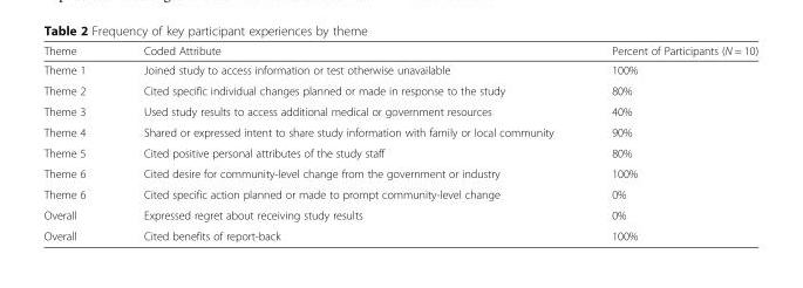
<table><thead><tr><td>Theme</td><td>Coded Attribute</td><td>Percent of Participants (N = 10)</td></tr></thead><tbody><tr><td>Theme 1</td><td>Joined study to access information or test otherwise unavailable</td><td>100%</td></tr><tr><td>Theme 2</td><td>Cited specific individual changes planned or made in response to the study</td><td>80%</td></tr><tr><td>Theme 3</td><td>Used study results to access additional medical or government resources</td><td>40%</td></tr><tr><td>Theme 4</td><td>Shared or expressed intent to share study information with family or local community</td><td>90%</td></tr><tr><td>Theme 5</td><td>Cited positive personal attributes of the study staff</td><td>80%</td></tr><tr><td>Theme 6</td><td>Cited desire for community-level change from the government or industry</td><td>100%</td></tr><tr><td>Theme 6</td><td>Cited specific action planned or made to prompt community-level change</td><td>0%</td></tr><tr><td>Overall</td><td>Expressed regret about receiving study results</td><td>0%</td></tr><tr><td>Overall</td><td>Cited benefits of report-back</td><td>100%</td></tr></tbody></table>